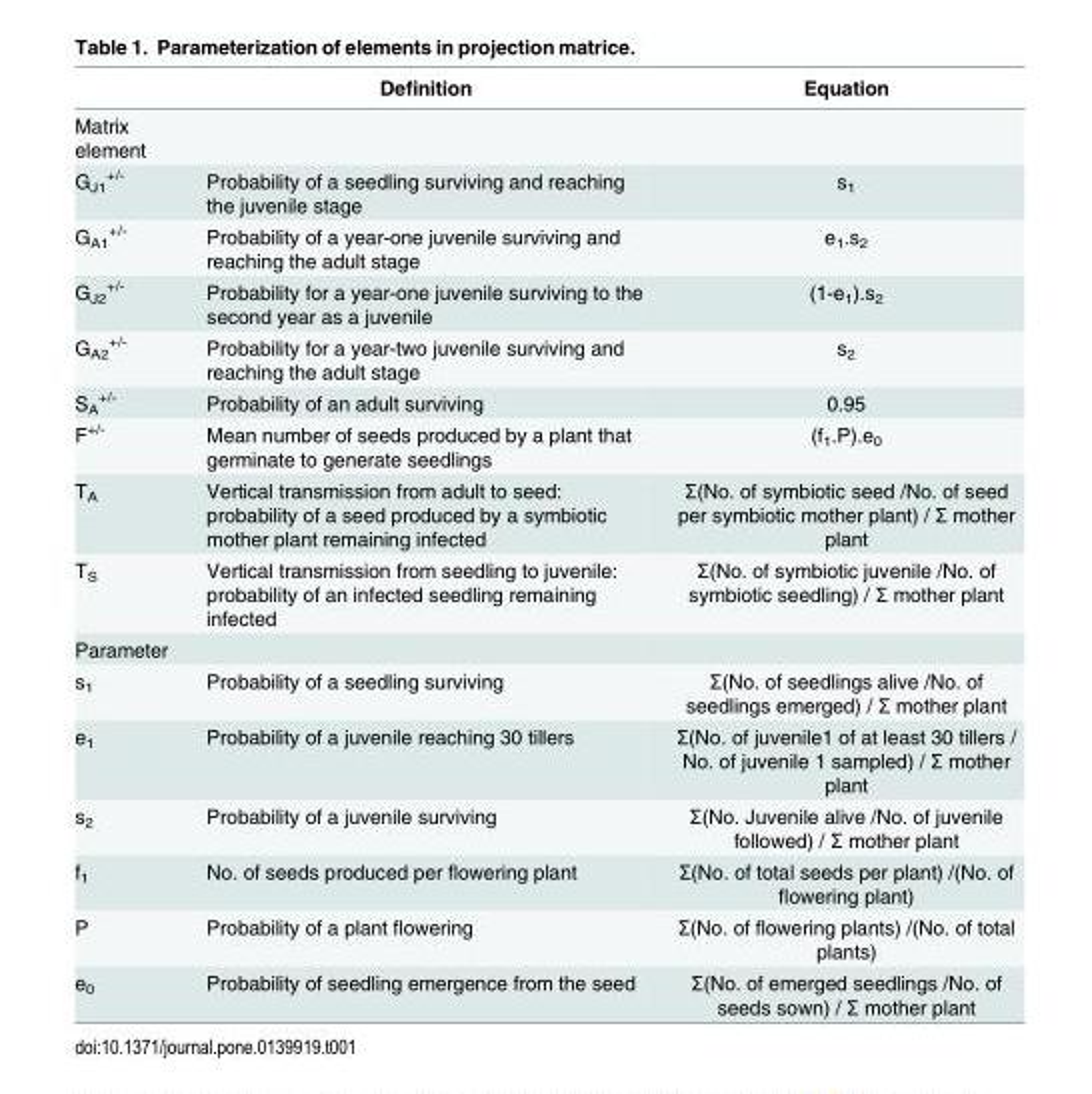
<table><thead><tr><td></td><td>Definition</td><td>Equation</td></tr></thead><tbody><tr><td colspan="3">Matrix element</td></tr><tr><td>G<sub>J1</sub> <sup>+/-</sup></td><td>Probability of a seedling surviving and reaching the juvenile stage</td><td>s<sub>1</sub></td></tr><tr><td>G<sub>A1</sub> <sup>+/-</sup></td><td>Probability of a year-one juvenile surviving and reaching the adult stage</td><td>e<sub>1</sub>.s<sub>2</sub></td></tr><tr><td>G<sub>J2</sub> <sup>+/-</sup></td><td>Probability for a year-one juvenile surviving to the second year as a juvenile</td><td>(1-e<sub>1</sub>).s<sub>2</sub></td></tr><tr><td>G<sub>A2</sub> <sup>+/-</sup></td><td>Probability for a year-two juvenile surviving and reaching the adult stage</td><td>s<sub>2</sub></td></tr><tr><td>S<sub>A</sub> <sup>+/-</sup></td><td>Probability of an adult surviving</td><td>0.95</td></tr><tr><td>F<sup>+/-</sup></td><td>Mean number of seeds produced by a plant that germinate to generate seedlings</td><td>(f<sub>1</sub>.P).e<sub>0</sub></td></tr><tr><td>T<sub>A</sub></td><td>Vertical transmission from adult to seed: probability of a seed produced by a symbiotic mother plant remaining infected</td><td>Σ(No. of symbiotic seed /No. of seed per symbiotic mother plant) / Σ mother plant</td></tr><tr><td>T<sub>S</sub></td><td>Vertical transmission from seedling to juvenile: probability of an infected seedling remaining infected</td><td>Σ(No. of symbiotic juvenile /No. of symbiotic seedling) / Σ mother plant</td></tr><tr><td colspan="3">Parameter</td></tr><tr><td>s<sub>1</sub></td><td>Probability of a seedling surviving</td><td>Σ(No. of seedlings alive /No. of seedlings emerged) / Σ mother plant</td></tr><tr><td>e<sub>1</sub></td><td>Probability of a juvenile reaching 30 tillers</td><td>Σ(No. of juvenile1 of at least 30 tillers / No. of juvenile 1 sampled) / Σ mother plant</td></tr><tr><td>s<sub>2</sub></td><td>Probability of a juvenile surviving</td><td>Σ(No. Juvenile alive /No. of juvenile followed) / Σ mother plant</td></tr><tr><td>f<sub>1</sub></td><td>No. of seeds produced per flowering plant</td><td>Σ(No. of total seeds per plant) /(No. of flowering plant)</td></tr><tr><td>P</td><td>Probability of a plant flowering</td><td>Σ(No. of flowering plants) /(No. of total plants)</td></tr><tr><td>e<sub>0</sub></td><td>Probability of seedling emergence from the seed</td><td>Σ(No. of emerged seedlings /No. of seeds sown) / Σ mother plant</td></tr></tbody></table>